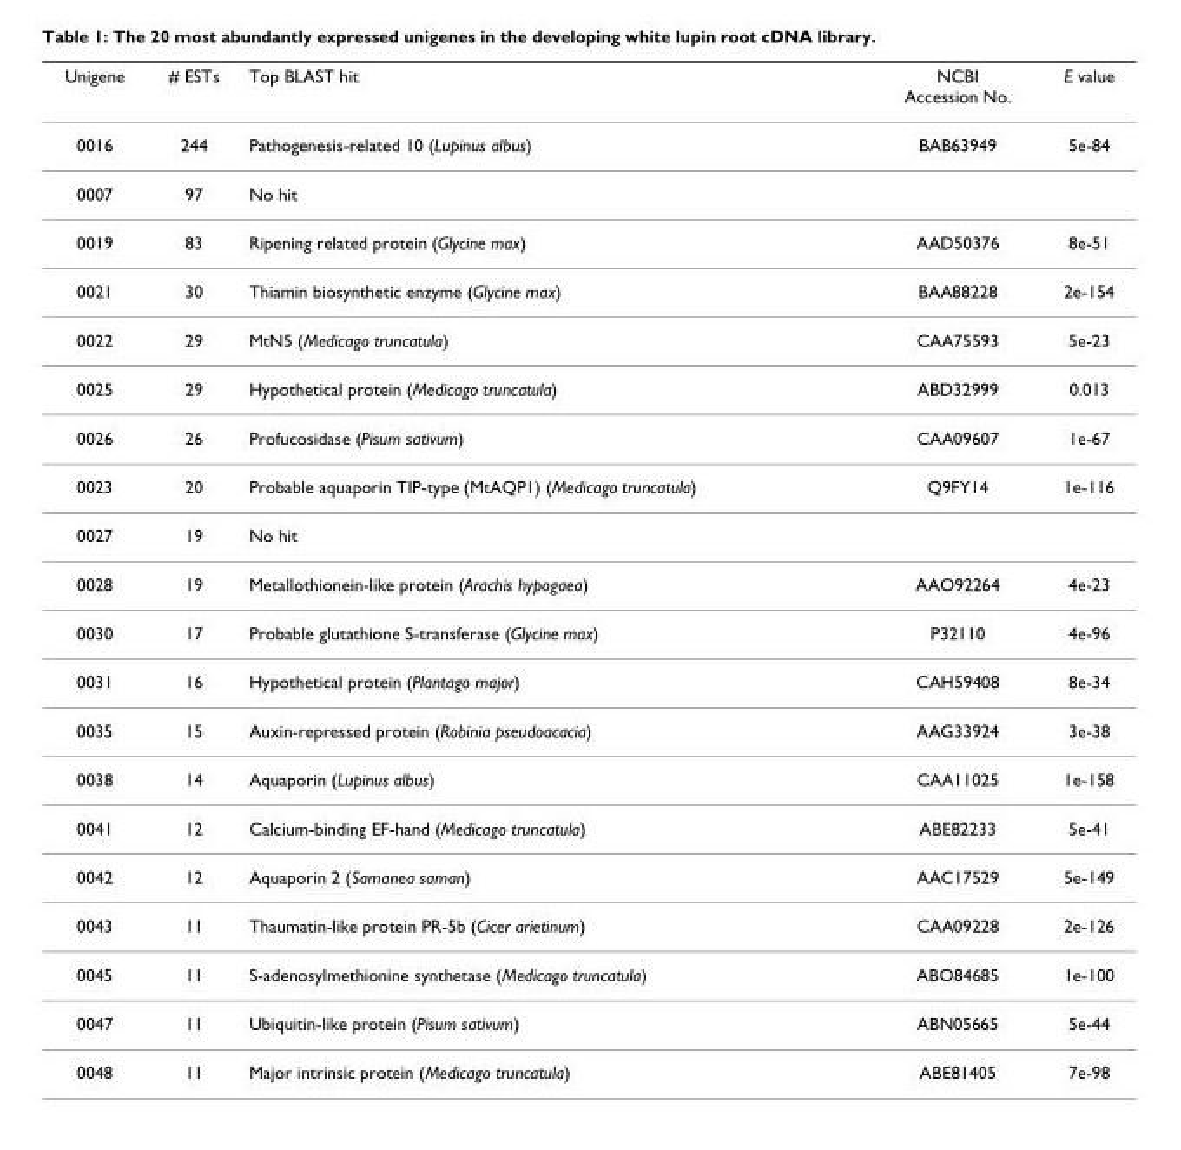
<table><thead><tr><td>Unigene</td><td># ESTs</td><td>Top BLAST hit</td><td>NCBI Accession No.</td><td>E value</td></tr></thead><tbody><tr><td>0016</td><td>244</td><td>Pathogenesis-related 10 (Lupinus albus)</td><td>BAB63949</td><td>5e-84</td></tr><tr><td>0007</td><td>97</td><td>No hit</td><td></td><td></td></tr><tr><td>0019</td><td>83</td><td>Ripening related protein (Glycine max)</td><td>AAD50376</td><td>8e-51</td></tr><tr><td>0021</td><td>30</td><td>Thiamin biosynthetic enzyme (Glycine max)</td><td>BAA88228</td><td>2e-154</td></tr><tr><td>0022</td><td>29</td><td>MtN5 (Medicago truncatula)</td><td>CAA75593</td><td>5e-23</td></tr><tr><td>0025</td><td>29</td><td>Hypothetical protein (Medicago truncatula)</td><td>ABD32999</td><td>0.013</td></tr><tr><td>0026</td><td>26</td><td>Profucosidase (Pisum sativum)</td><td>CAA09607</td><td>1e-67</td></tr><tr><td>0023</td><td>20</td><td>Probable aquaporin TIP-type (MtAQP1) (Medicago truncatula)</td><td>Q9FY14</td><td>1e-116</td></tr><tr><td>0027</td><td>19</td><td>No hit</td><td></td><td></td></tr><tr><td>0028</td><td>19</td><td>Metallothionein-like protein (Arachis hypogaea)</td><td>AAO92264</td><td>4e-23</td></tr><tr><td>0030</td><td>17</td><td>Probable glutathione S-transferase (Glycine max)</td><td>P32110</td><td>4e-96</td></tr><tr><td>0031</td><td>16</td><td>Hypothetical protein (Plantago major)</td><td>CAH59408</td><td>8e-34</td></tr><tr><td>0035</td><td>15</td><td>Auxin-repressed protein (Robinia pseudoacacia)</td><td>AAG33924</td><td>3e-38</td></tr><tr><td>0038</td><td>14</td><td>Aquaporin (Lupinus albus)</td><td>CAA11025</td><td>1e-158</td></tr><tr><td>0041</td><td>12</td><td>Calcium-binding EF-hand (Medicago truncatula)</td><td>ABE82233</td><td>5e-41</td></tr><tr><td>0042</td><td>12</td><td>Aquaporin 2 (Samanea saman)</td><td>AAC17529</td><td>5e-149</td></tr><tr><td>0043</td><td>11</td><td>Thaumatin-like protein PR-5b (Cicer arietinum)</td><td>CAA09228</td><td>2e-126</td></tr><tr><td>0045</td><td>11</td><td>S-adenosylmethionine synthetase (Medicago truncatula)</td><td>ABO84685</td><td>1e-100</td></tr><tr><td>0047</td><td>11</td><td>Ubiquitin-like protein (Pisum sativum)</td><td>ABN05665</td><td>5e-44</td></tr><tr><td>0048</td><td>11</td><td>Major intrinsic protein (Medicago truncatula)</td><td>ABE81405</td><td>7e-98</td></tr></tbody></table>